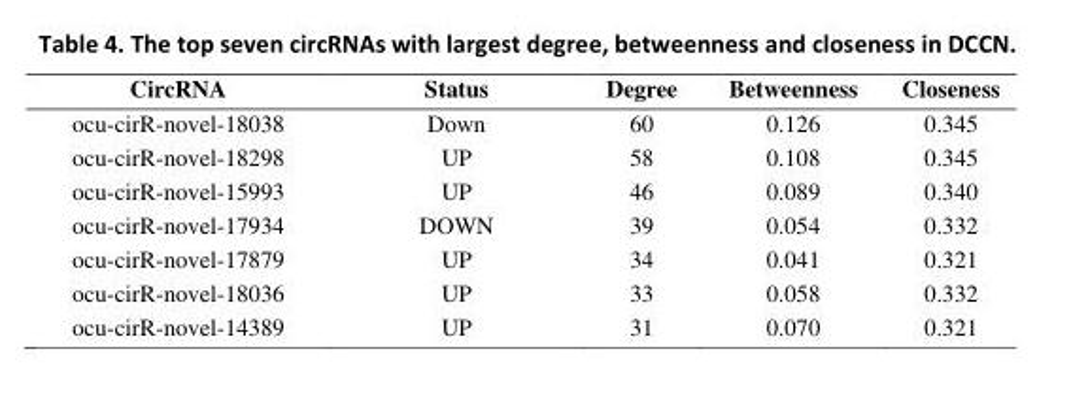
<table><tbody><tr><td>CircRNA</td><td>Status</td><td>Degree</td><td>Betweenness</td><td>Closeness</td></tr><tr><td>ocu-cirR-novel-18038</td><td>Down</td><td>60</td><td>0.126</td><td>0.345</td></tr><tr><td>ocu-cirR-novel-18298</td><td>UP</td><td>58</td><td>0.108</td><td>0.345</td></tr><tr><td>ocu-cirR-novel-15993</td><td>UP</td><td>46</td><td>0.089</td><td>0.340</td></tr><tr><td>ocu-cirR-novel-17934</td><td>DOWN</td><td>39</td><td>0.054</td><td>0.332</td></tr><tr><td>ocu-cirR-novel-17879</td><td>UP</td><td>34</td><td>0.041</td><td>0.321</td></tr><tr><td>ocu-cirR-novel-18036</td><td>UP</td><td>33</td><td>0.058</td><td>0.332</td></tr><tr><td>ocu-cirR-novel-14389</td><td>UP</td><td>31</td><td>0.070</td><td>0.321</td></tr></tbody></table>